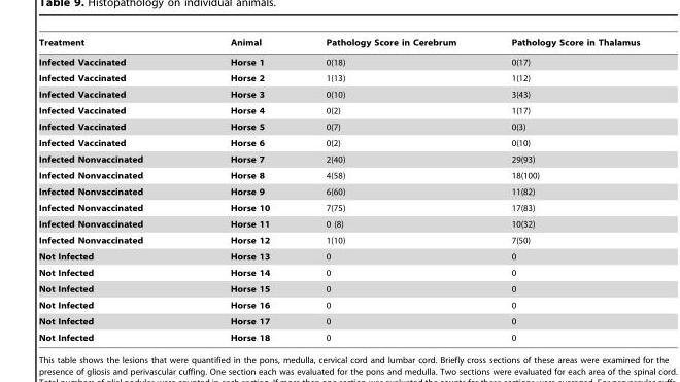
<table><thead><tr><td>Treatment</td><td>Animal</td><td>Pathology Score in Cerebrum</td><td>Pathology Score in Thalamus</td></tr></thead><tbody><tr><td>Infected Vaccinated</td><td>Horse 1</td><td>0(18)</td><td>0(17)</td></tr><tr><td>Infected Vaccinated</td><td>Horse 2</td><td>1(13)</td><td>1(12)</td></tr><tr><td>Infected Vaccinated</td><td>Horse 3</td><td>0(10)</td><td>3(43)</td></tr><tr><td>Infected Vaccinated</td><td>Horse 4</td><td>0(2)</td><td>1(17)</td></tr><tr><td>Infected Vaccinated</td><td>Horse 5</td><td>0(7)</td><td>0(3)</td></tr><tr><td>Infected Vaccinated</td><td>Horse 6</td><td>0(2)</td><td>0(10)</td></tr><tr><td>Infected Nonvaccinated</td><td>Horse 7</td><td>2(40)</td><td>29(93)</td></tr><tr><td>Infected Nonvaccinated</td><td>Horse 8</td><td>4(58)</td><td>18(100)</td></tr><tr><td>Infected Nonvaccinated</td><td>Horse 9</td><td>6(60)</td><td>11(82)</td></tr><tr><td>Infected Nonvaccinated</td><td>Horse 10</td><td>7(75)</td><td>17(83)</td></tr><tr><td>Infected Nonvaccinated</td><td>Horse 11</td><td>0 (8)</td><td>10(32)</td></tr><tr><td>Infected Nonvaccinated</td><td>Horse 12</td><td>1(10)</td><td>7(50)</td></tr><tr><td>Not Infected</td><td>Horse 13</td><td>0</td><td>0</td></tr><tr><td>Not Infected</td><td>Horse 14</td><td>0</td><td>0</td></tr><tr><td>Not Infected</td><td>Horse 15</td><td>0</td><td>0</td></tr><tr><td>Not Infected</td><td>Horse 16</td><td>0</td><td>0</td></tr><tr><td>Not Infected</td><td>Horse 17</td><td>0</td><td>0</td></tr><tr><td>Not Infected</td><td>Horse 18</td><td>0</td><td>0</td></tr></tbody></table>